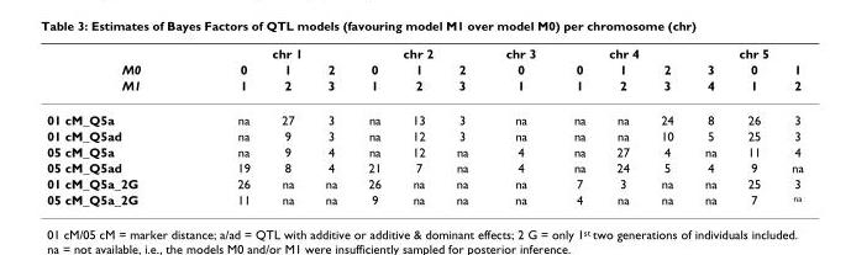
<table><thead><tr><td rowspan="3">M0 M1</td><td colspan="3">chr 1</td><td colspan="3">chr 2</td><td rowspan="3">chr 3 0 1</td><td colspan="3">chr 4</td><td colspan="3">chr 5</td></tr><tr><td rowspan="2">0 1</td><td rowspan="2">1 2</td><td rowspan="2">2 3</td><td rowspan="2">0 1</td><td rowspan="2">1 2</td><td rowspan="2">2 3</td><td rowspan="2">0 1</td><td rowspan="2">1 2</td><td rowspan="2">2 3</td><td rowspan="2">3 4</td><td rowspan="2">0 1</td><td rowspan="2">1 2</td></tr><tr></tr></thead><tbody><tr><td>01 cM_Q5a</td><td>na</td><td>27</td><td>3</td><td>na</td><td>13</td><td>3</td><td>na</td><td>na</td><td>na</td><td>24</td><td>8</td><td>26</td><td>3</td></tr><tr><td>01 cM_Q5ad</td><td>na</td><td>9</td><td>3</td><td>na</td><td>12</td><td>3</td><td>na</td><td>na</td><td>na</td><td>10</td><td>5</td><td>25</td><td>3</td></tr><tr><td>05 cM_Q5a</td><td>na</td><td>9</td><td>4</td><td>na</td><td>12</td><td>na</td><td>4</td><td>na</td><td>27</td><td>4</td><td>na</td><td>11</td><td>4</td></tr><tr><td>05 cM_Q5ad</td><td>19</td><td>8</td><td>4</td><td>21</td><td>7</td><td>na</td><td>4</td><td>na</td><td>24</td><td>5</td><td>4</td><td>9</td><td>na</td></tr><tr><td>01 cM_Q5a_2G</td><td>26</td><td>na</td><td>na</td><td>26</td><td>na</td><td>na</td><td>na</td><td>7</td><td>3</td><td>na</td><td>na</td><td>25</td><td>3</td></tr><tr><td>05 cM_Q5a_2G</td><td>11</td><td>na</td><td>na</td><td>9</td><td>na</td><td>na</td><td>na</td><td>4</td><td>na</td><td>na</td><td>na</td><td>7</td><td><sup>na</sup></td></tr></tbody></table>